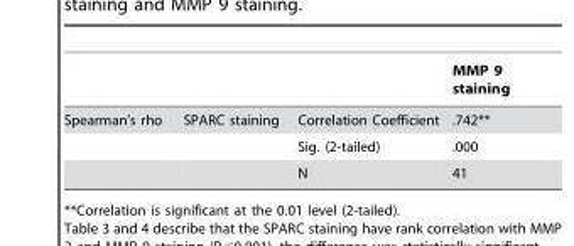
<table><thead><tr><td></td><td></td><td></td><td>MMP 9 staining</td></tr></thead><tbody><tr><td rowspan="3">Spearman’s rho</td><td>SPARC staining</td><td>Correlation Coefficient</td><td>.742**</td></tr><tr><td></td><td>Sig. (2-tailed)</td><td>.000</td></tr><tr><td></td><td>N</td><td>41</td></tr></tbody></table>